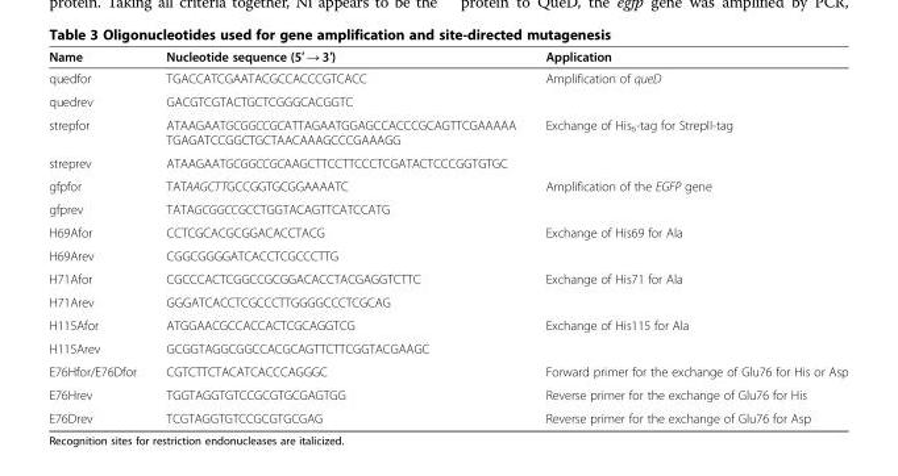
<table><thead><tr><td>Name</td><td>Nucleotide sequence (5′ → 3′)</td><td>Application</td></tr></thead><tbody><tr><td>quedfor</td><td>TGACCATCGAATACGCCACCCGTCACC</td><td rowspan="2">Amplification of queD</td></tr><tr><td>quedrev</td><td>GACGTCGTACTGCTCGGGCACGGTC</td></tr><tr><td>strepfor</td><td>ATAAGAATGCGGCCGCATTAGAATGGAGCCACCCGCAGTTCGAAAAA TGAGATCCGGCTGCTAACAAAGCCCGAAAGG</td><td rowspan="2">Exchange of His<sub>6</sub>-tag for StrepII-tag</td></tr><tr><td>streprev</td><td>ATAAGAATGCGGCCGCAAGCTTCCTTCCCTCGATACTCCCGGTGTGC</td></tr><tr><td>gfpfor</td><td>TATAAGCTTGCCGGTGCGGAAAATC</td><td rowspan="2">Amplification of the EGFP gene</td></tr><tr><td>gfprev</td><td>TATAGCGGCCGCCTGGTACAGTTCATCCATG</td></tr><tr><td>H69Afor</td><td>CCTCGCACGCGGACACCTACG</td><td rowspan="2">Exchange of His69 for Ala</td></tr><tr><td>H69Arev</td><td>CGGCGGGGATCACCTCGCCCTTG</td></tr><tr><td>H71Afor</td><td>CGCCCACTCGGCCGCGGACACCTACGAGGTCTTC</td><td rowspan="2">Exchange of His71 for Ala</td></tr><tr><td>H71Arev</td><td>GGGATCACCTCGCCCTTGGGGCCCTCGCAG</td></tr><tr><td>H115Afor</td><td>ATGGAACGCCACCACTCGCAGGTCG</td><td rowspan="2">Exchange of His115 for Ala</td></tr><tr><td>H115Arev</td><td>GCGGTAGGCGGCCACGCAGTTCTTCGGTACGAAGC</td></tr><tr><td>E76Hfor/E76Dfor</td><td>CGTCTTCTACATCACCCAGGGC</td><td>Forward primer for the exchange of Glu76 for His or Asp</td></tr><tr><td>E76Hrev</td><td>TGGTAGGTGTCCGCGTGCGAGTGG</td><td>Reverse primer for the exchange of Glu76 for His</td></tr><tr><td>E76Drev</td><td>TCGTAGGTGTCCGCGTGCGAG</td><td>Reverse primer for the exchange of Glu76 for Asp</td></tr></tbody></table>